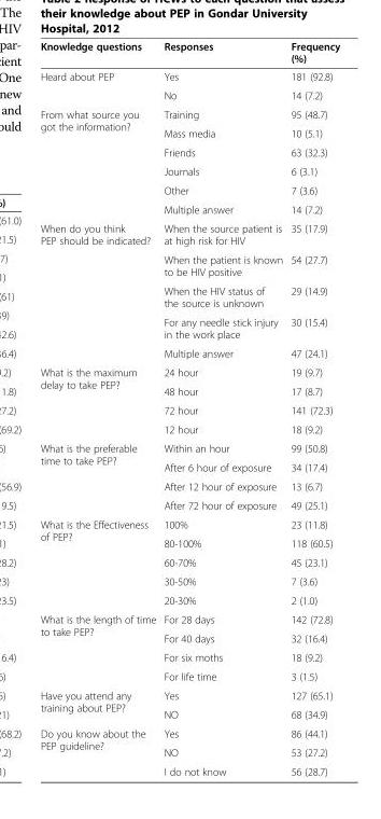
<table><thead><tr><td>Knowledge questions</td><td>Responses</td><td>Frequency (%)</td></tr></thead><tbody><tr><td rowspan="2">Heard about PEP</td><td>Yes</td><td>181 (92.8)</td></tr><tr><td>No</td><td>14 (7.2)</td></tr><tr><td rowspan="6">From what source you got the information?</td><td>Training</td><td>95 (48.7)</td></tr><tr><td>Mass media</td><td>10 (5.1)</td></tr><tr><td>Friends</td><td>63 (32.3)</td></tr><tr><td>Journals</td><td>6 (3.1)</td></tr><tr><td>Other</td><td>7 (3.6)</td></tr><tr><td>Multiple answer</td><td>14 (7.2)</td></tr><tr><td rowspan="5">When do you think PEP should be indicated?</td><td>When the source patient is at high risk for HIV</td><td>35 (17.9)</td></tr><tr><td>When the patient is known to be HIV positive</td><td>54 (27.7)</td></tr><tr><td>When the HIV status of the source is unknown</td><td>29 (14.9)</td></tr><tr><td>For any needle stick injury in the work place</td><td>30 (15.4)</td></tr><tr><td>Multiple answer</td><td>47 (24.1)</td></tr><tr><td rowspan="4">What is the maximum delay to take PEP?</td><td>24 hour</td><td>19 (9.7)</td></tr><tr><td>48 hour</td><td>17 (8.7)</td></tr><tr><td>72 hour</td><td>141 (72.3)</td></tr><tr><td>12 hour</td><td>18 (9.2)</td></tr><tr><td rowspan="4">What is the preferable time to take PEP?</td><td>Within an hour</td><td>99 (50.8)</td></tr><tr><td>After 6 hour of exposure</td><td>34 (17.4)</td></tr><tr><td>After 12 hour of exposure</td><td>13 (6.7)</td></tr><tr><td>After 72 hour of exposure</td><td>49 (25.1)</td></tr><tr><td rowspan="5">What is the Effectiveness of PEP?</td><td>100%</td><td>23 (11.8)</td></tr><tr><td>80-100%</td><td>118 (60.5)</td></tr><tr><td>60-70%</td><td>45 (23.1)</td></tr><tr><td>30-50%</td><td>7 (3.6)</td></tr><tr><td>20-30%</td><td>2 (1.0)</td></tr><tr><td rowspan="4">What is the length of time to take PEP?</td><td>For 28 days</td><td>142 (72.8)</td></tr><tr><td>For 40 days</td><td>32 (16.4)</td></tr><tr><td>For six moths</td><td>18 (9.2)</td></tr><tr><td>For life time</td><td>3 (1.5)</td></tr><tr><td rowspan="2">Have you attend any training about PEP?</td><td>Yes</td><td>127 (65.1)</td></tr><tr><td>NO</td><td>68 (34.9)</td></tr><tr><td rowspan="3">Do you know about the PEP guideline?</td><td>Yes</td><td>86 (44.1)</td></tr><tr><td>NO</td><td>53 (27.2)</td></tr><tr><td>I do not know</td><td>56 (28.7)</td></tr></tbody></table>